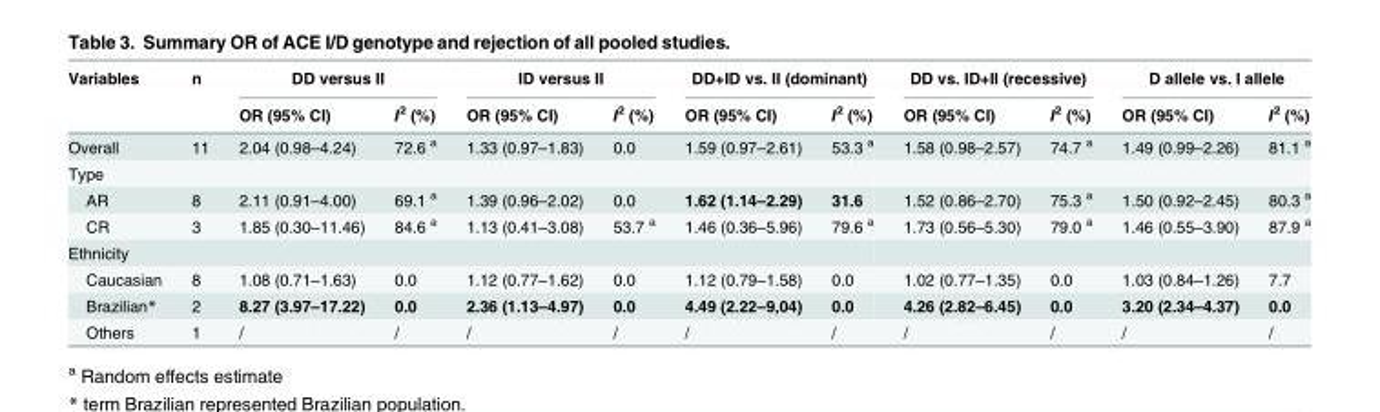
<table><thead><tr><td rowspan="2">Variables</td><td rowspan="2">n</td><td colspan="2">DD versus II</td><td colspan="2">ID versus II</td><td colspan="2">DD+ID vs. II (dominant)</td><td colspan="2">DD vs. ID+II (recessive)</td><td colspan="2">D allele vs. I allele</td></tr><tr><td>OR (95% CI)</td><td>I<sup>2</sup> (%)</td><td>OR (95% CI)</td><td>I<sup>2</sup> (%)</td><td>OR (95% CI)</td><td>I<sup>2</sup> (%)</td><td>OR (95% CI)</td><td>I<sup>2</sup> (%)</td><td>OR (95% CI)</td><td>I<sup>2</sup> (%)</td></tr></thead><tbody><tr><td>Overall</td><td>11</td><td>2.04 (0.98–4.24)</td><td>72.6 <sup>a</sup></td><td>1.33 (0.97–1.83)</td><td>0.0</td><td>1.59 (0.97–2.61)</td><td>53.3 <sup>a</sup></td><td>1.58 (0.98–2.57)</td><td>74.7 <sup>a</sup></td><td>1.49 (0.99–2.26)</td><td>81.1 <sup>a</sup></td></tr><tr><td colspan="12">Type</td></tr><tr><td>AR</td><td>8</td><td>2.11 (0.91–4.00)</td><td>69.1 <sup>a</sup></td><td>1.39 (0.96–2.02)</td><td>0.0</td><td>1.62 (1.14–2.29)</td><td>31.6</td><td>1.52 (0.86–2.70)</td><td>75.3 <sup>a</sup></td><td>1.50 (0.92–2.45)</td><td>80.3 <sup>a</sup></td></tr><tr><td>CR</td><td>3</td><td>1.85 (0.30–11.46)</td><td>84.6 <sup>a</sup></td><td>1.13 (0.41–3.08)</td><td>53.7 <sup>a</sup></td><td>1.46 (0.36–5.96)</td><td>79.6 <sup>a</sup></td><td>1.73 (0.56–5.30)</td><td>79.0 <sup>a</sup></td><td>1.46 (0.55–3.90)</td><td>87.9 <sup>a</sup></td></tr><tr><td colspan="12">Ethnicity</td></tr><tr><td>Caucasian</td><td>8</td><td>1.08 (0.71–1.63)</td><td>0.0</td><td>1.12 (0.77–1.62)</td><td>0.0</td><td>1.12 (0.79–1.58)</td><td>0.0</td><td>1.02 (0.77–1.35)</td><td>0.0</td><td>1.03 (0.84–1.26)</td><td>7.7</td></tr><tr><td>Brazilian*</td><td>2</td><td>8.27 (3.97–17.22)</td><td>0.0</td><td>2.36 (1.13–4.97)</td><td>0.0</td><td>4.49 (2.22–9,04)</td><td>0.0</td><td>4.26 (2.82–6.45)</td><td>0.0</td><td>3.20 (2.34–4.37)</td><td>0.0</td></tr><tr><td>Others</td><td>1</td><td>/</td><td>/</td><td>/</td><td>/</td><td>/</td><td>/</td><td>/</td><td>/</td><td>/</td><td>/</td></tr></tbody></table>